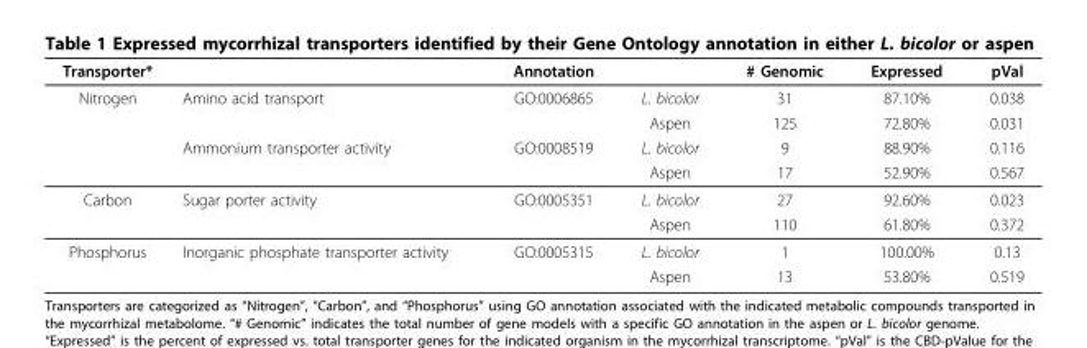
<table><thead><tr><td>Transporter*</td><td></td><td>Annotation</td><td></td><td># Genomic</td><td>Expressed</td><td>pVal</td></tr></thead><tbody><tr><td rowspan="4">Nitrogen</td><td>Amino acid transport</td><td>GO:0006865</td><td>L. bicolor</td><td>31</td><td>87.10%</td><td>0.038</td></tr><tr><td></td><td></td><td>Aspen</td><td>125</td><td>72.80%</td><td>0.031</td></tr><tr><td>Ammonium transporter activity</td><td>GO:0008519</td><td>L. bicolor</td><td>9</td><td>88.90%</td><td>0.116</td></tr><tr><td></td><td></td><td>Aspen</td><td>17</td><td>52.90%</td><td>0.567</td></tr><tr><td rowspan="2">Carbon</td><td>Sugar porter activity</td><td>GO:0005351</td><td>L. bicolor</td><td>27</td><td>92.60%</td><td>0.023</td></tr><tr><td></td><td></td><td>Aspen</td><td>110</td><td>61.80%</td><td>0.372</td></tr><tr><td rowspan="2">Phosphorus</td><td>Inorganic phosphate transporter activity</td><td>GO:0005315</td><td>L. bicolor</td><td>1</td><td>100.00%</td><td>0.13</td></tr><tr><td></td><td></td><td>Aspen</td><td>13</td><td>53.80%</td><td>0.519</td></tr></tbody></table>